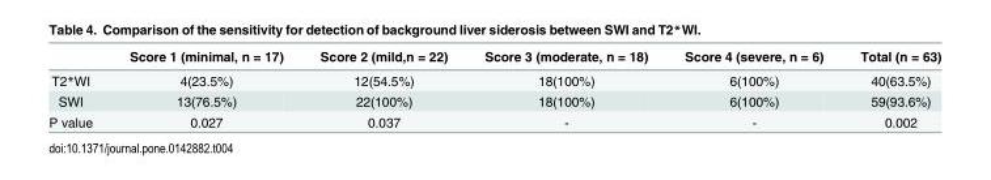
<table><thead><tr><td></td><td>Score 1 (minimal, n = 17)</td><td>Score 2 (mild,n = 22)</td><td>Score 3 (moderate, n = 18)</td><td>Score 4 (severe, n = 6)</td><td>Total (n = 63)</td></tr></thead><tbody><tr><td>T2*WI</td><td>4(23.5%)</td><td>12(54.5%)</td><td>18(100%)</td><td>6(100%)</td><td>40(63.5%)</td></tr><tr><td>SWI</td><td>13(76.5%)</td><td>22(100%)</td><td>18(100%)</td><td>6(100%)</td><td>59(93.6%)</td></tr><tr><td>P value</td><td>0.027</td><td>0.037</td><td>-</td><td>-</td><td>0.002</td></tr></tbody></table>